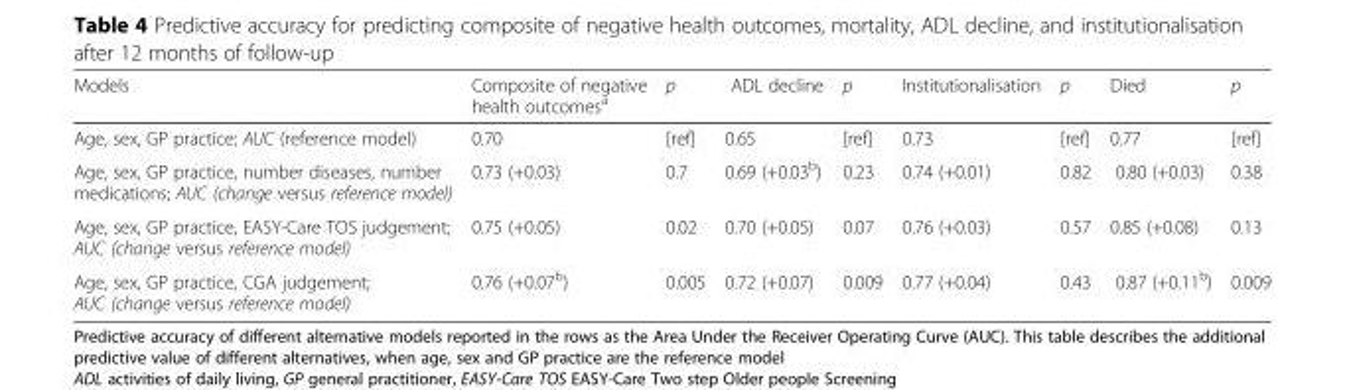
<table><thead><tr><td>Models</td><td>Composite of negative health outcomes<sup>a</sup></td><td>p</td><td>ADL decline</td><td>p</td><td>Institutionalisation</td><td>p</td><td>Died</td><td>p</td></tr></thead><tbody><tr><td>Age, sex, GP practice; AUC (reference model)</td><td>0.70</td><td>[ref]</td><td>0.65</td><td>[ref]</td><td>0.73</td><td>[ref]</td><td>0.77</td><td>[ref]</td></tr><tr><td>Age, sex, GP practice, number diseases, number medications; AUC (change versus reference model)</td><td>0.73 (+0.03)</td><td>0.7</td><td>0.69 (+0.03<sup>b</sup>)</td><td>0.23</td><td>0.74 (+0.01)</td><td>0.82</td><td>0.80 (+0.03)</td><td>0.38</td></tr><tr><td>Age, sex, GP practice, EASY-Care TOS judgement; AUC (change versus reference model)</td><td>0.75 (+0.05)</td><td>0.02</td><td>0.70 (+0.05)</td><td>0.07</td><td>0.76 (+0.03)</td><td>0.57</td><td>0.85 (+0.08)</td><td>0.13</td></tr><tr><td>Age, sex, GP practice, CGA judgement; AUC (change versus reference model)</td><td>0.76 (+0.07<sup>b</sup>)</td><td>0.005</td><td>0.72 (+0.07)</td><td>0.009</td><td>0.77 (+0.04)</td><td>0.43</td><td>0.87 (+0.11<sup>b</sup>)</td><td>0.009</td></tr></tbody></table>